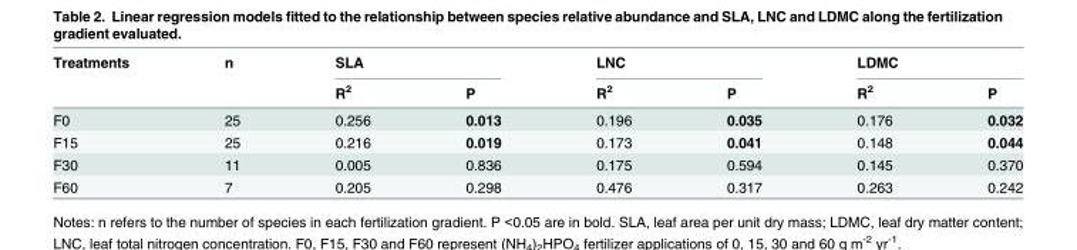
<table><thead><tr><td rowspan="2">Treatments</td><td rowspan="2">n</td><td colspan="2">SLA</td><td colspan="2">LNC</td><td colspan="2">LDMC</td></tr><tr><td>R<sup>2</sup></td><td>P</td><td>R<sup>2</sup></td><td>P</td><td>R<sup>2</sup></td><td>P</td></tr></thead><tbody><tr><td>F0</td><td>25</td><td>0.256</td><td>0.013</td><td>0.196</td><td>0.035</td><td>0.176</td><td>0.032</td></tr><tr><td>F15</td><td>25</td><td>0.216</td><td>0.019</td><td>0.173</td><td>0.041</td><td>0.148</td><td>0.044</td></tr><tr><td>F30</td><td>11</td><td>0.005</td><td>0.836</td><td>0.175</td><td>0.594</td><td>0.145</td><td>0.370</td></tr><tr><td>F60</td><td>7</td><td>0.205</td><td>0.298</td><td>0.476</td><td>0.317</td><td>0.263</td><td>0.242</td></tr></tbody></table>